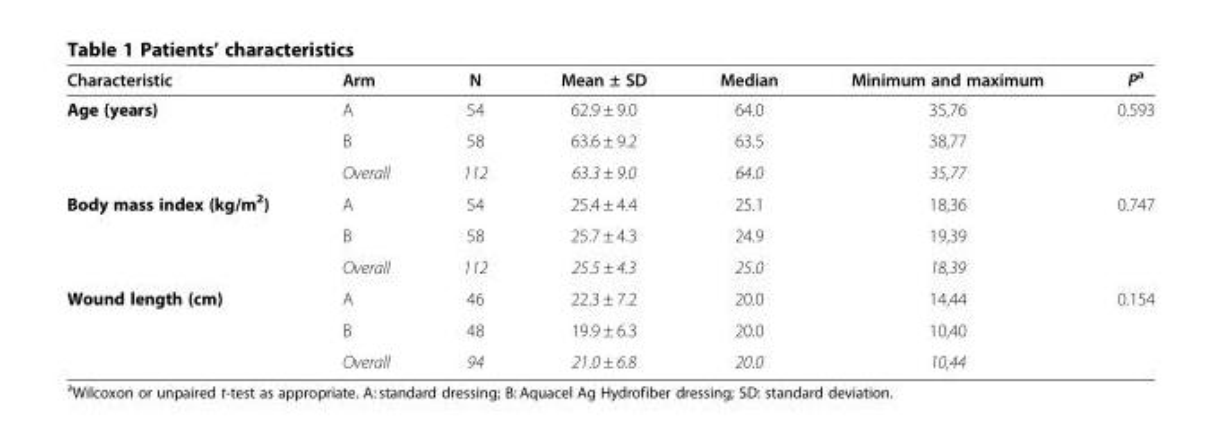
<table><thead><tr><td>Characteristic</td><td>Arm</td><td>N</td><td>Mean ± SD</td><td>Median</td><td>Minimum and maximum</td><td>P<sup>a</sup></td></tr></thead><tbody><tr><td rowspan="3">Age (years)</td><td>A</td><td>54</td><td>62.9 ± 9.0</td><td>64.0</td><td>35,76</td><td>0.593</td></tr><tr><td>B</td><td>58</td><td>63.6 ± 9.2</td><td>63.5</td><td>38,77</td><td></td></tr><tr><td>Overall</td><td>112</td><td>63.3 ± 9.0</td><td>64.0</td><td>35,77</td><td></td></tr><tr><td rowspan="3">Body mass index (kg/m<sup>2</sup>)</td><td>A</td><td>54</td><td>25.4 ± 4.4</td><td>25.1</td><td>18,36</td><td>0.747</td></tr><tr><td>B</td><td>58</td><td>25.7 ± 4.3</td><td>24.9</td><td>19,39</td><td></td></tr><tr><td>Overall</td><td>112</td><td>25.5 ± 4.3</td><td>25.0</td><td>18,39</td><td></td></tr><tr><td rowspan="3">Wound length (cm)</td><td>A</td><td>46</td><td>22.3 ± 7.2</td><td>20.0</td><td>14,44</td><td>0.154</td></tr><tr><td>B</td><td>48</td><td>19.9 ± 6.3</td><td>20.0</td><td>10,40</td><td></td></tr><tr><td>Overall</td><td>94</td><td>21.0 ± 6.8</td><td>20.0</td><td>10,44</td><td></td></tr></tbody></table>